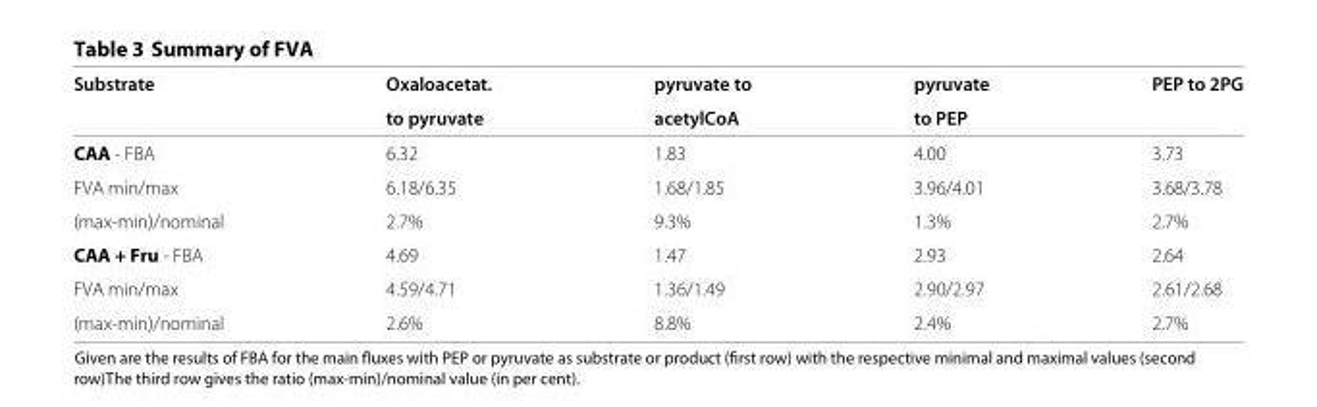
<table><thead><tr><td rowspan="2">Substrate</td><td rowspan="2">Oxaloacetat. to pyruvate</td><td rowspan="2">pyruvate to acetylCoA</td><td rowspan="2">pyruvate to PEP</td><td rowspan="2">PEP to 2PG</td></tr><tr></tr></thead><tbody><tr><td>CAA - FBA</td><td>6.32</td><td>1.83</td><td>4.00</td><td>3.73</td></tr><tr><td>FVA min/max</td><td>6.18/6.35</td><td>1.68/1.85</td><td>3.96/4.01</td><td>3.68/3.78</td></tr><tr><td>(max-min)/nominal</td><td>2.7%</td><td>9.3%</td><td>1.3%</td><td>2.7%</td></tr><tr><td>CAA + Fru - FBA</td><td>4.69</td><td>1.47</td><td>2.93</td><td>2.64</td></tr><tr><td>FVA min/max</td><td>4.59/4.71</td><td>1.36/1.49</td><td>2.90/2.97</td><td>2.61/2.68</td></tr><tr><td>(max-min)/nominal</td><td>2.6%</td><td>8.8%</td><td>2.4%</td><td>2.7%</td></tr></tbody></table>